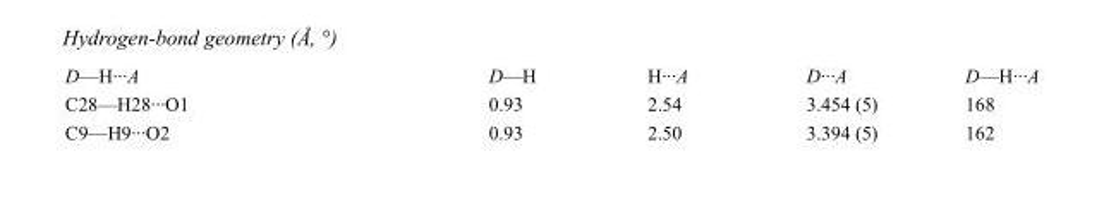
<table><tbody><tr><td>D—H···A</td><td>D—H</td><td>H···A</td><td>D···A</td><td>D—H···A</td></tr><tr><td>C28—H28···O1</td><td>0.93</td><td>2.54</td><td>3.454 (5)</td><td>168</td></tr><tr><td>C9—H9···O2</td><td>0.93</td><td>2.50</td><td>3.394 (5)</td><td>162</td></tr></tbody></table>